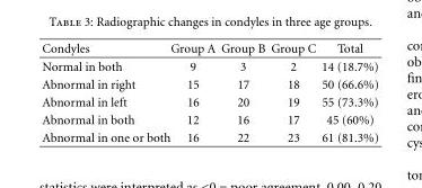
<table><thead><tr><td>Condyles</td><td>Group A</td><td>Group B</td><td>Group C</td><td>Total</td></tr></thead><tbody><tr><td>Normal in both</td><td>9</td><td>3</td><td>2</td><td>14 (18.7%)</td></tr><tr><td>Abnormal in right</td><td>15</td><td>17</td><td>18</td><td>50 (66.6%)</td></tr><tr><td>Abnormal in left</td><td>16</td><td>20</td><td>19</td><td>55 (73.3%)</td></tr><tr><td>Abnormal in both</td><td>12</td><td>16</td><td>17</td><td>45 (60%)</td></tr><tr><td>Abnormal in one or both</td><td>16</td><td>22</td><td>23</td><td>61 (81.3%)</td></tr></tbody></table>